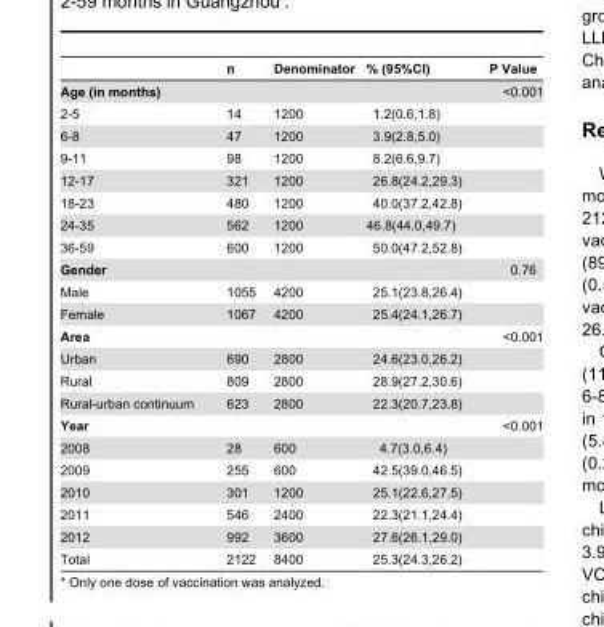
<table><thead><tr><td></td><td>n</td><td>Denominator</td><td>% (95%CI)</td><td>P Value</td></tr></thead><tbody><tr><td>Age (in months)</td><td></td><td></td><td></td><td>&lt;0.001</td></tr><tr><td>2-5</td><td>14</td><td>1200</td><td>1.2(0.6,1.8)</td><td></td></tr><tr><td>6-8</td><td>47</td><td>1200</td><td>3.9(2.8,5.0)</td><td></td></tr><tr><td>9-11</td><td>98</td><td>1200</td><td>8.2(6.6,9.7)</td><td></td></tr><tr><td>12-17</td><td>321</td><td>1200</td><td>26.8(24.2,29.3)</td><td></td></tr><tr><td>18-23</td><td>480</td><td>1200</td><td>40.0(37.2,42.8)</td><td></td></tr><tr><td>24-35</td><td>562</td><td>1200</td><td>46.8(44.0,49.7)</td><td></td></tr><tr><td>36-59</td><td>600</td><td>1200</td><td>50.0(47.2,52.8)</td><td></td></tr><tr><td>Gender</td><td></td><td></td><td></td><td>0.76</td></tr><tr><td>Male</td><td>1055</td><td>4200</td><td>25.1(23.8,26.4)</td><td></td></tr><tr><td>Female</td><td>1067</td><td>4200</td><td>25.4(24.1,26.7)</td><td></td></tr><tr><td>Area</td><td></td><td></td><td></td><td>&lt;0.001</td></tr><tr><td>Urban</td><td>690</td><td>2800</td><td>24.6(23.0,26.2)</td><td></td></tr><tr><td>Rural</td><td>809</td><td>2800</td><td>28.9(27.2,30.6)</td><td></td></tr><tr><td>Rural-urban continuum</td><td>623</td><td>2800</td><td>22.3(20.7,23.8)</td><td></td></tr><tr><td>Year</td><td></td><td></td><td></td><td>&lt;0.001</td></tr><tr><td>2008</td><td>28</td><td>600</td><td>4.7(3.0,6.4)</td><td></td></tr><tr><td>2009</td><td>255</td><td>600</td><td>42.5(39.0,46.5)</td><td></td></tr><tr><td>2010</td><td>301</td><td>1200</td><td>25.1(22.6,27.5)</td><td></td></tr><tr><td>2011</td><td>546</td><td>2400</td><td>22.3(21.1,24.4)</td><td></td></tr><tr><td>2012</td><td>992</td><td>3600</td><td>27.6(26.1,29.0)</td><td></td></tr><tr><td>Total</td><td>2122</td><td>8400</td><td>25.3(24.3,26.2)</td><td></td></tr></tbody></table>